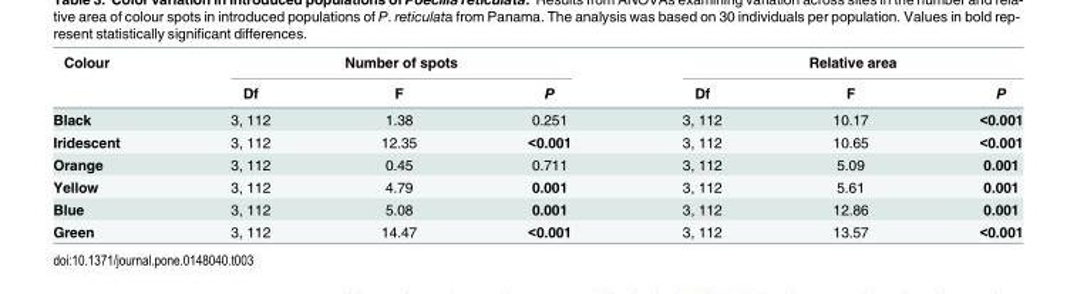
<table><thead><tr><td rowspan="2">Colour</td><td colspan="3">Number of spots</td><td colspan="3">Relative area</td></tr><tr><td>Df</td><td>F</td><td>P</td><td>Df</td><td>F</td><td>P</td></tr></thead><tbody><tr><td>Black</td><td>3, 112</td><td>1.38</td><td>0.251</td><td>3, 112</td><td>10.17</td><td>&lt;0.001</td></tr><tr><td>Iridescent</td><td>3, 112</td><td>12.35</td><td>&lt;0.001</td><td>3, 112</td><td>10.65</td><td>&lt;0.001</td></tr><tr><td>Orange</td><td>3, 112</td><td>0.45</td><td>0.711</td><td>3, 112</td><td>5.09</td><td>0.001</td></tr><tr><td>Yellow</td><td>3, 112</td><td>4.79</td><td>0.001</td><td>3, 112</td><td>5.61</td><td>0.001</td></tr><tr><td>Blue</td><td>3, 112</td><td>5.08</td><td>0.001</td><td>3, 112</td><td>12.86</td><td>0.001</td></tr><tr><td>Green</td><td>3, 112</td><td>14.47</td><td>&lt;0.001</td><td>3, 112</td><td>13.57</td><td>&lt;0.001</td></tr></tbody></table>